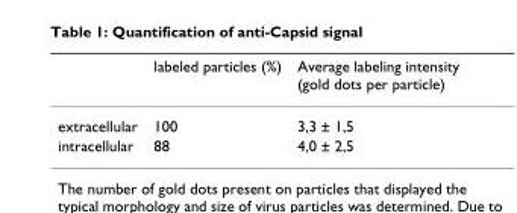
<table><thead><tr><td></td><td>labeled particles (%)</td><td>Average labeling intensity (gold dots per particle)</td></tr></thead><tbody><tr><td>extracellular</td><td>100</td><td>3,3 ± 1,5</td></tr><tr><td>intracellular</td><td>88</td><td>4,0 ± 2,5</td></tr></tbody></table>